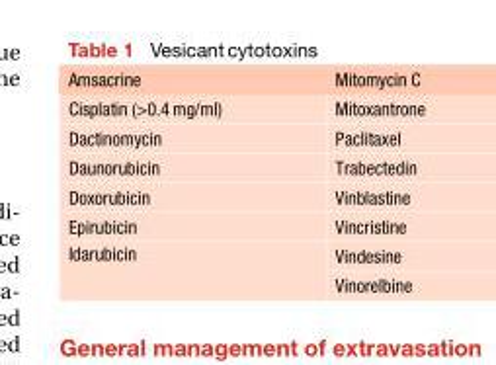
<table><thead><tr><td>Amsacrine</td><td>Mitomycin C</td></tr></thead><tbody><tr><td>Cisplatin (&gt;0.4 mg/ml)</td><td>Mitoxantrone</td></tr><tr><td>Dactinomycin</td><td>Paclitaxel</td></tr><tr><td>Daunorubicin</td><td>Trabectedin</td></tr><tr><td>Doxorubicin</td><td>Vinblastine</td></tr><tr><td>Epirubicin</td><td>Vincristine</td></tr><tr><td rowspan="2">Idarubicin</td><td>Vindesine</td></tr><tr><td>Vinorelbine</td></tr></tbody></table>